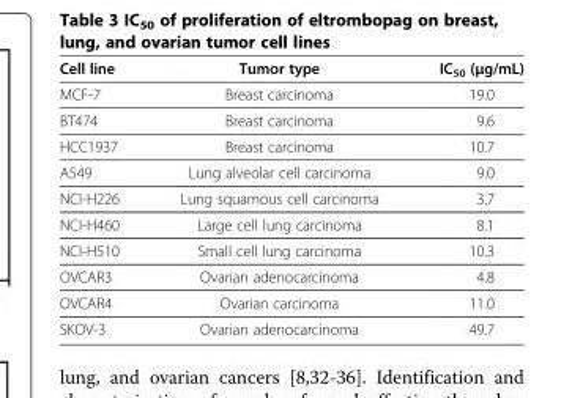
<table><thead><tr><td>Cell line</td><td>Tumor type</td><td>IC<sub>50</sub> (μg/mL)</td></tr></thead><tbody><tr><td>MCF-7</td><td>Breast carcinoma</td><td>19.0</td></tr><tr><td>BT474</td><td>Breast carcinoma</td><td>9.6</td></tr><tr><td>HCC1937</td><td>Breast carcinoma</td><td>10.7</td></tr><tr><td>A549</td><td>Lung alveolar cell carcinoma</td><td>9.0</td></tr><tr><td>NCI-H226</td><td>Lung squamous cell carcinoma</td><td>3.7</td></tr><tr><td>NCI-H460</td><td>Large cell lung carcinoma</td><td>8.1</td></tr><tr><td>NCI-H510</td><td>Small cell lung carcinoma</td><td>10.3</td></tr><tr><td>OVCAR3</td><td>Ovarian adenocarcinoma</td><td>4.8</td></tr><tr><td>OVCAR4</td><td>Ovarian carcinoma</td><td>11.0</td></tr><tr><td>SKOV-3</td><td>Ovarian adenocarcinoma</td><td>49.7</td></tr></tbody></table>